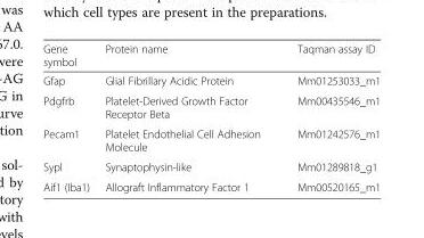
<table><thead><tr><td>Gene symbol</td><td>Protein name</td><td>Taqman assay ID</td></tr></thead><tbody><tr><td>Gfap</td><td>Glial Fibrillary Acidic Protein</td><td>Mm01253033_m1</td></tr><tr><td>Pdgfrb</td><td>Platelet-Derived Growth Factor Receptor Beta</td><td>Mm00435546_m1</td></tr><tr><td>Pecam1</td><td>Platelet Endothelial Cell Adhesion Molecule</td><td>Mm01242576_m1</td></tr><tr><td>Sypl</td><td>Synaptophysin-like</td><td>Mm01289818_g1</td></tr><tr><td>Aif1 (Iba1)</td><td>Allograft Inflammatory Factor 1</td><td>Mm00520165_m1</td></tr></tbody></table>